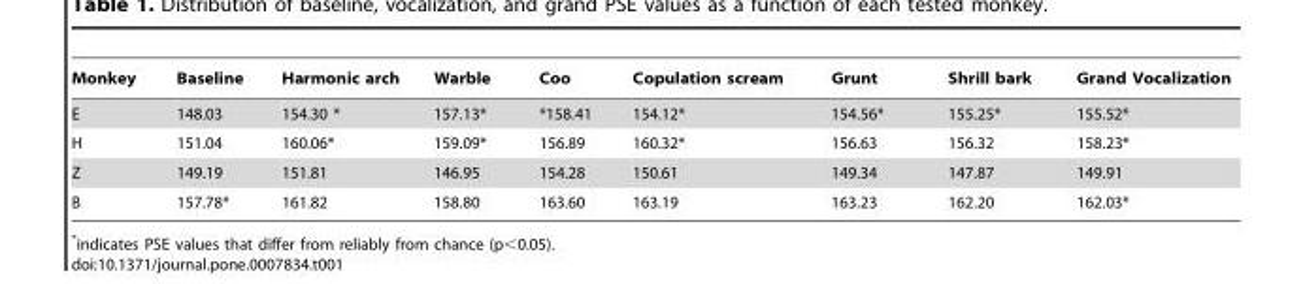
<table><thead><tr><td>Monkey</td><td>Baseline</td><td>Harmonic arch</td><td>Warble</td><td>Coo</td><td>Copulation scream</td><td>Grunt</td><td>Shrill bark</td><td>Grand Vocalization</td></tr></thead><tbody><tr><td>E</td><td>148.03</td><td>154.30 *</td><td>157.13*</td><td>*158.41</td><td>154.12*</td><td>154.56*</td><td>155.25*</td><td>155.52*</td></tr><tr><td>H</td><td>151.04</td><td>160.06*</td><td>159.09*</td><td>156.89</td><td>160.32*</td><td>156.63</td><td>156.32</td><td>158.23*</td></tr><tr><td>Z</td><td>149.19</td><td>151.81</td><td>146.95</td><td>154.28</td><td>150.61</td><td>149.34</td><td>147.87</td><td>149.91</td></tr><tr><td>B</td><td>157.78*</td><td>161.82</td><td>158.80</td><td>163.60</td><td>163.19</td><td>163.23</td><td>162.20</td><td>162.03*</td></tr></tbody></table>